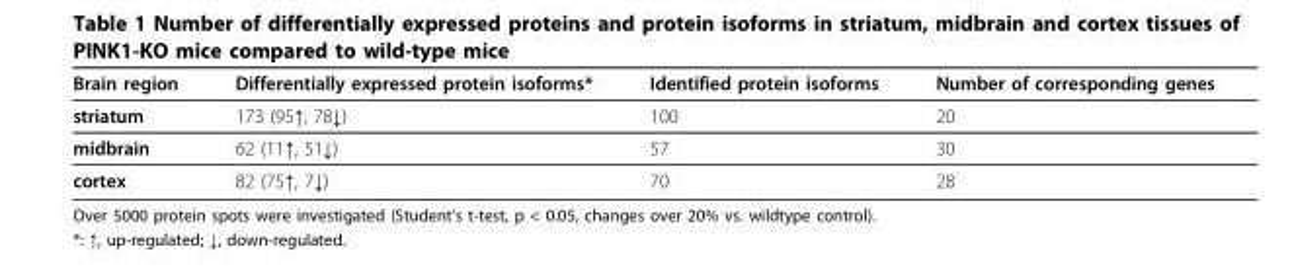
<table><thead><tr><td>Brain region</td><td>Differentially expressed protein isoforms*</td><td>Identified protein isoforms</td><td>Number of corresponding genes</td></tr></thead><tbody><tr><td>striatum</td><td>173 (95↑, 78↓)</td><td>100</td><td>20</td></tr><tr><td>midbrain</td><td>62 (11↑, 51↓)</td><td>57</td><td>30</td></tr><tr><td>cortex</td><td>82 (75↑, 7↓)</td><td>70</td><td>28</td></tr></tbody></table>